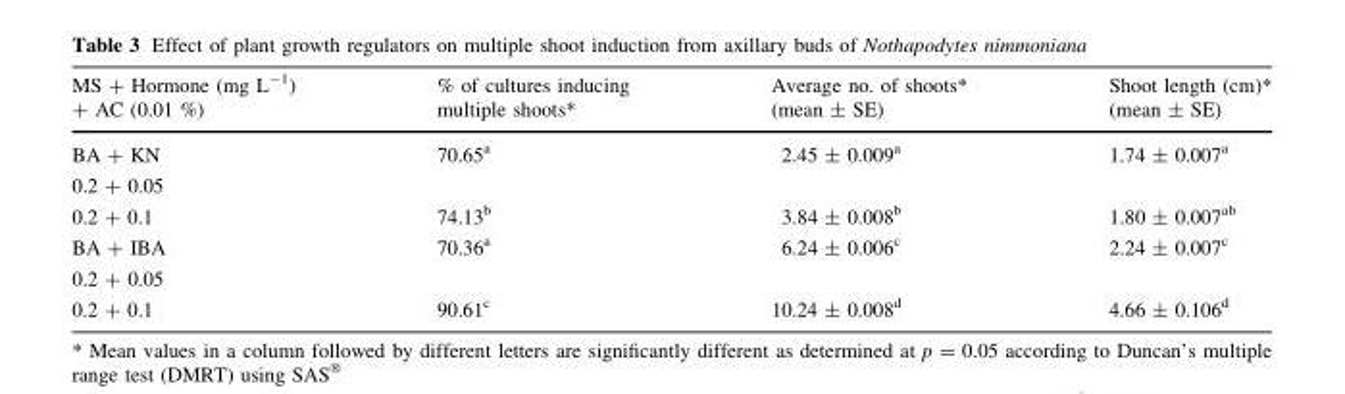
<table><thead><tr><td>MS + Hormone (mg L<sup>-1</sup>) + AC (0.01 %)</td><td>% of cultures inducing multiple shoots*</td><td>Average no. of shoots* (mean ± SE)</td><td>Shoot length (cm)* (mean ± SE)</td></tr></thead><tbody><tr><td>BA + KN 0.2 + 0.05</td><td>70.65<sup>a</sup></td><td>2.45 ± 0.009<sup>a</sup></td><td>1.74 ± 0.007<sup>a</sup></td></tr><tr><td>0.2 + 0.1</td><td>74.13<sup>b</sup></td><td>3.84 ± 0.008<sup>b</sup></td><td>1.80 ± 0.007<sup>ab</sup></td></tr><tr><td>BA + IBA 0.2 + 0.05</td><td>70.36<sup>a</sup></td><td>6.24 ± 0.006<sup>c</sup></td><td>2.24 ± 0.007<sup>c</sup></td></tr><tr><td>0.2 + 0.1</td><td>90.61<sup>c</sup></td><td>10.24 ± 0.008<sup>d</sup></td><td>4.66 ± 0.106<sup>d</sup></td></tr></tbody></table>